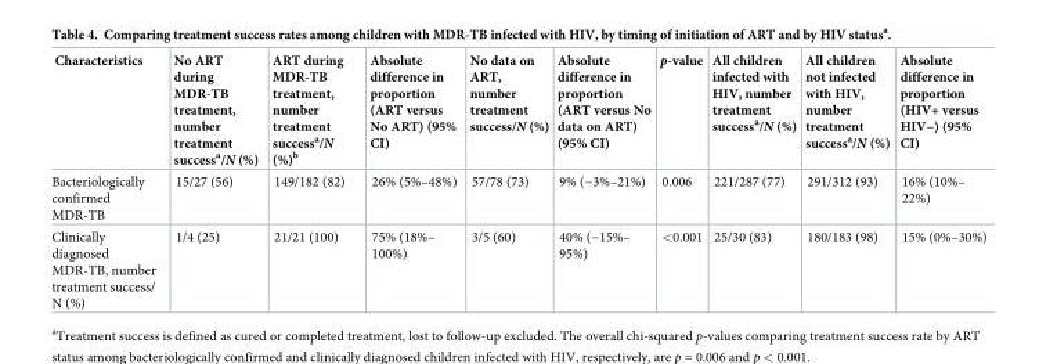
<table><thead><tr><td>Characteristics</td><td>No ART during MDR-TB treatment, number treatment success<sup>a</sup>/N (%)</td><td>ART during MDR-TB treatment, number treatment success<sup>a</sup>/N (%)<sup>b</sup></td><td>Absolute difference in proportion (ART versus No ART) (95% CI)</td><td>No data on ART, number treatment success/N (%)</td><td>Absolute difference in proportion (ART versus No data on ART) (95% CI)</td><td>p-value</td><td>All children infected with HIV, number treatment success<sup>a</sup>/N (%)</td><td>All children not infected with HIV, number treatment success<sup>a</sup>/N (%)</td><td>Absolute difference in proportion (HIV+ versus HIV−) (95% CI)</td></tr></thead><tbody><tr><td>Bacteriologically confirmed MDR-TB</td><td>15/27 (56)</td><td>149/182 (82)</td><td>26% (5%–48%)</td><td>57/78 (73)</td><td>9% (−3%–21%)</td><td>0.006</td><td>221/287 (77)</td><td>291/312 (93)</td><td>16% (10%– 22%)</td></tr><tr><td>Clinically diagnosed MDR-TB, number treatment success/ N (%)</td><td>1/4 (25)</td><td>21/21 (100)</td><td>75% (18%– 100%)</td><td>3/5 (60)</td><td>40% (−15%– 95%)</td><td>&lt;0.001</td><td>25/30 (83)</td><td>180/183 (98)</td><td>15% (0%–30%)</td></tr></tbody></table>